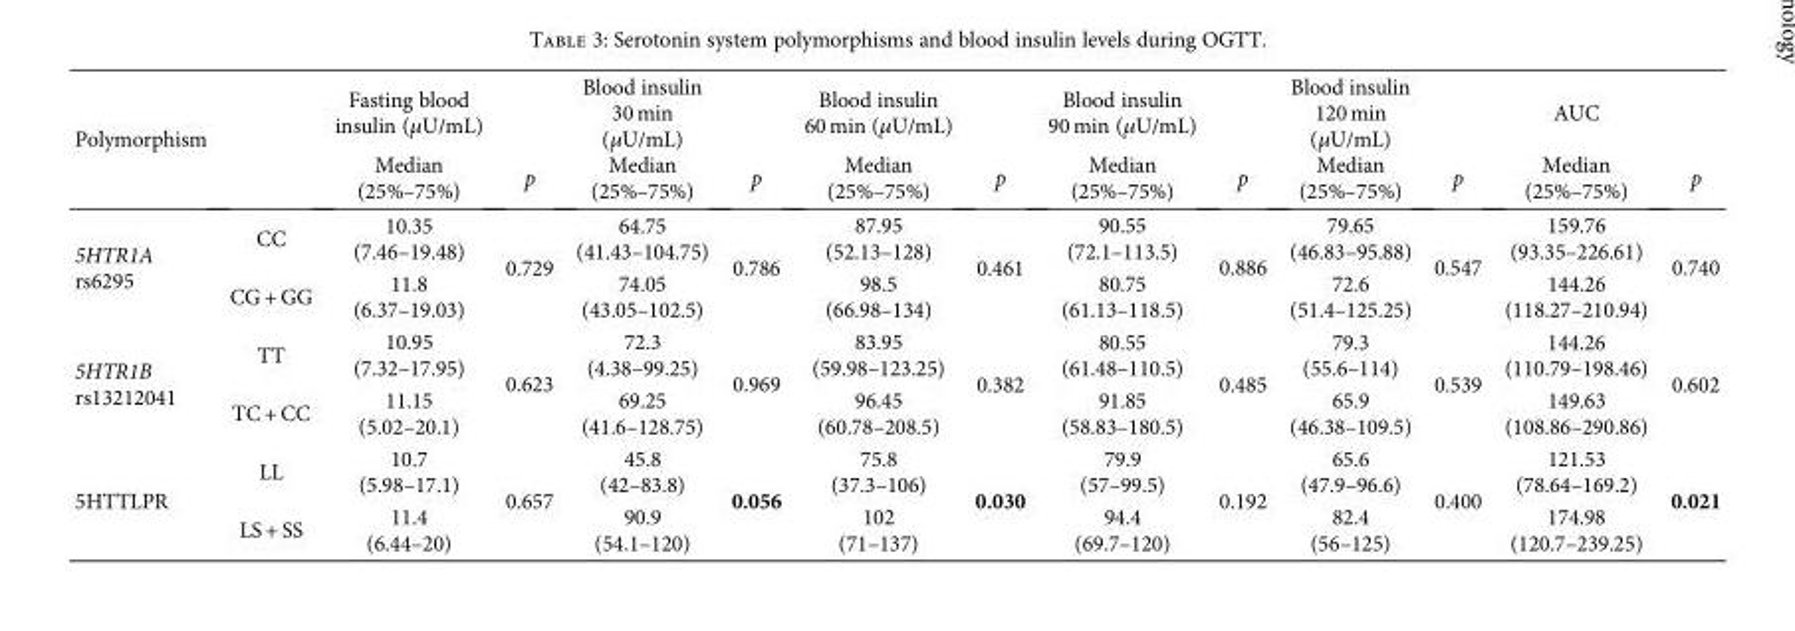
<table><thead><tr><td rowspan="2">Polymorphism</td><td rowspan="2"></td><td rowspan="2">Fasting blood insulin (μU/mL) Median (25%–75%)</td><td rowspan="2">p</td><td rowspan="2">Blood insulin 30 min (μU/mL) Median (25%–75%)</td><td rowspan="2">p</td><td rowspan="2">Blood insulin 60 min (μU/mL) Median (25%–75%)</td><td rowspan="2">p</td><td rowspan="2">Blood insulin 90 min (μU/mL) Median (25%–75%)</td><td rowspan="2">p</td><td rowspan="2">Blood insulin 120 min (μU/mL) Median (25%–75%)</td><td rowspan="2">p</td><td rowspan="2">AUC Median (25%–75%)</td><td rowspan="2">p</td></tr><tr></tr></thead><tbody><tr><td rowspan="2">5HTR1A rs6295</td><td>CC</td><td>10.35 (7.46–19.48)</td><td rowspan="2">0.729</td><td>64.75 (41.43–104.75)</td><td rowspan="2">0.786</td><td>87.95 (52.13–128)</td><td rowspan="2">0.461</td><td>90.55 (72.1–113.5)</td><td rowspan="2">0.886</td><td>79.65 (46.83–95.88)</td><td rowspan="2">0.547</td><td>159.76 (93.35–226.61)</td><td rowspan="2">0.740</td></tr><tr><td>CG + GG</td><td>11.8 (6.37–19.03)</td><td>74.05 (43.05–102.5)</td><td>98.5 (66.98–134)</td><td>80.75 (61.13–118.5)</td><td>72.6 (51.4–125.25)</td><td>144.26 (118.27–210.94)</td></tr><tr><td rowspan="2">5HTR1B rs13212041</td><td>TT</td><td>10.95 (7.32–17.95)</td><td rowspan="2">0.623</td><td>72.3 (4.38–99.25)</td><td rowspan="2">0.969</td><td>83.95 (59.98–123.25)</td><td rowspan="2">0.382</td><td>80.55 (61.48–110.5)</td><td rowspan="2">0.485</td><td>79.3 (55.6–114)</td><td rowspan="2">0.539</td><td>144.26 (110.79–198.46)</td><td rowspan="2">0.602</td></tr><tr><td>TC + CC</td><td>11.15 (5.02–20.1)</td><td>69.25 (41.6–128.75)</td><td>96.45 (60.78–208.5)</td><td>91.85 (58.83–180.5)</td><td>65.9 (46.38–109.5)</td><td>149.63 (108.86–290.86)</td></tr><tr><td rowspan="2">5HTTLPR</td><td>LL</td><td>10.7 (5.98–17.1)</td><td rowspan="2">0.657</td><td>45.8 (42–83.8)</td><td rowspan="2">0.056</td><td>75.8 (37.3–106)</td><td rowspan="2">0.030</td><td>79.9 (57–99.5)</td><td rowspan="2">0.192</td><td>65.6 (47.9–96.6)</td><td rowspan="2">0.400</td><td>121.53 (78.64–169.2)</td><td rowspan="2">0.021</td></tr><tr><td>LS + SS</td><td>11.4 (6.44–20)</td><td>90.9 (54.1–120)</td><td>102 (71–137)</td><td>94.4 (69.7–120)</td><td>82.4 (56–125)</td><td>174.98 (120.7–239.25)</td></tr></tbody></table>